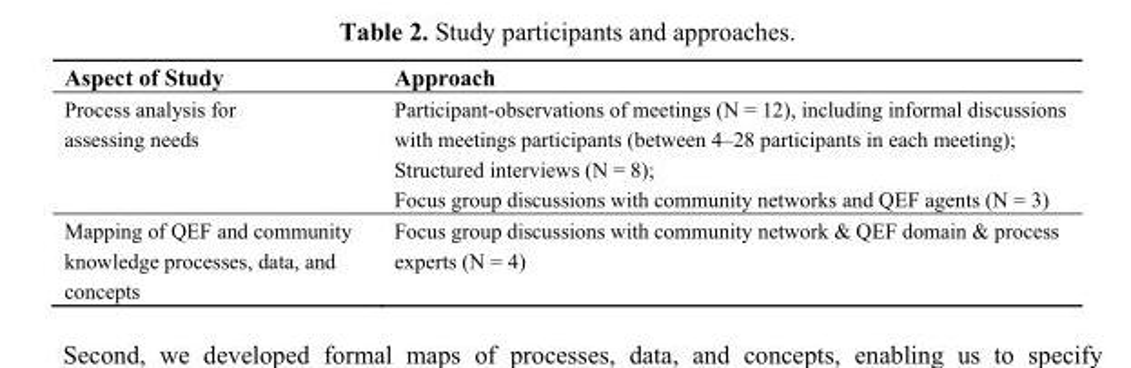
<table><thead><tr><td>Aspect of Study</td><td>Approach</td></tr></thead><tbody><tr><td>Process analysis for assessing needs</td><td>Participant-observations of meetings (N = 12), including informal discussions with meetings participants (between 4–28 participants in each meeting); Structured interviews (N = 8); Focus group discussions with community networks and QEF agents (N = 3)</td></tr><tr><td>Mapping of QEF and community knowledge processes, data, and concepts</td><td>Focus group discussions with community network &amp; QEF domain &amp; process experts (N = 4)</td></tr></tbody></table>